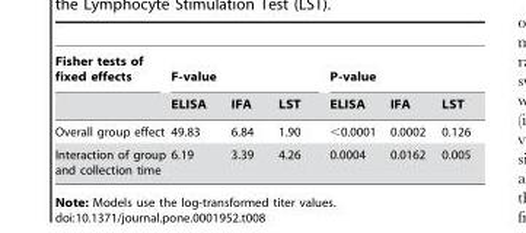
<table><thead><tr><td rowspan="2">Fisher tests of fixed effects</td><td colspan="3">F-value</td><td colspan="3">P-value</td></tr><tr><td>ELISA</td><td>IFA</td><td>LST</td><td>ELISA</td><td>IFA</td><td>LST</td></tr></thead><tbody><tr><td>Overall group effect</td><td>49.83</td><td>6.84</td><td>1.90</td><td>&lt;0.0001</td><td>0.0002</td><td>0.126</td></tr><tr><td>Interaction of group and collection time</td><td>6.19</td><td>3.39</td><td>4.26</td><td>0.0004</td><td>0.0162</td><td>0.005</td></tr></tbody></table>